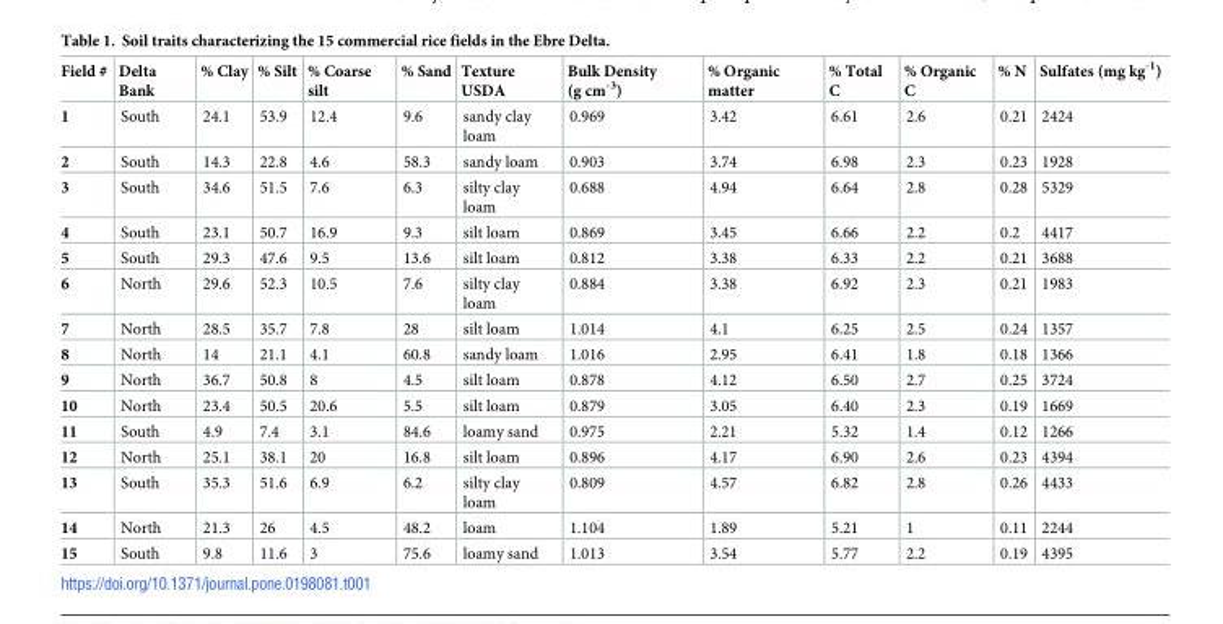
<table><thead><tr><td>Field #</td><td>Delta Bank</td><td>% Clay</td><td>% Silt</td><td>% Coarse silt</td><td>% Sand</td><td>Texture USDA</td><td>Bulk Density (g cm<sup>-3</sup>)</td><td>% Organic matter</td><td>% Total C</td><td>% Organic C</td><td>% N</td><td>Sulfates (mg kg<sup>-1</sup>)</td></tr></thead><tbody><tr><td>1</td><td>South</td><td>24.1</td><td>53.9</td><td>12.4</td><td>9.6</td><td>sandy clay loam</td><td>0.969</td><td>3.42</td><td>6.61</td><td>2.6</td><td>0.21</td><td>2424</td></tr><tr><td>2</td><td>South</td><td>14.3</td><td>22.8</td><td>4.6</td><td>58.3</td><td>sandy loam</td><td>0.903</td><td>3.74</td><td>6.98</td><td>2.3</td><td>0.23</td><td>1928</td></tr><tr><td>3</td><td>South</td><td>34.6</td><td>51.5</td><td>7.6</td><td>6.3</td><td>silty clay loam</td><td>0.688</td><td>4.94</td><td>6.64</td><td>2.8</td><td>0.28</td><td>5329</td></tr><tr><td>4</td><td>South</td><td>23.1</td><td>50.7</td><td>16.9</td><td>9.3</td><td>silt loam</td><td>0.869</td><td>3.45</td><td>6.66</td><td>2.2</td><td>0.2</td><td>4417</td></tr><tr><td>5</td><td>South</td><td>29.3</td><td>47.6</td><td>9.5</td><td>13.6</td><td>silt loam</td><td>0.812</td><td>3.38</td><td>6.33</td><td>2.2</td><td>0.21</td><td>3688</td></tr><tr><td>6</td><td>North</td><td>29.6</td><td>52.3</td><td>10.5</td><td>7.6</td><td>silty clay loam</td><td>0.884</td><td>3.38</td><td>6.92</td><td>2.3</td><td>0.21</td><td>1983</td></tr><tr><td>7</td><td>North</td><td>28.5</td><td>35.7</td><td>7.8</td><td>28</td><td>silt loam</td><td>1.014</td><td>4.1</td><td>6.25</td><td>2.5</td><td>0.24</td><td>1357</td></tr><tr><td>8</td><td>North</td><td>14</td><td>21.1</td><td>4.1</td><td>60.8</td><td>sandy loam</td><td>1.016</td><td>2.95</td><td>6.41</td><td>1.8</td><td>0.18</td><td>1366</td></tr><tr><td>9</td><td>North</td><td>36.7</td><td>50.8</td><td>8</td><td>4.5</td><td>silt loam</td><td>0.878</td><td>4.12</td><td>6.50</td><td>2.7</td><td>0.25</td><td>3724</td></tr><tr><td>10</td><td>North</td><td>23.4</td><td>50.5</td><td>20.6</td><td>5.5</td><td>silt loam</td><td>0.879</td><td>3.05</td><td>6.40</td><td>2.3</td><td>0.19</td><td>1669</td></tr><tr><td>11</td><td>South</td><td>4.9</td><td>7.4</td><td>3.1</td><td>84.6</td><td>loamy sand</td><td>0.975</td><td>2.21</td><td>5.32</td><td>1.4</td><td>0.12</td><td>1266</td></tr><tr><td>12</td><td>North</td><td>25.1</td><td>38.1</td><td>20</td><td>16.8</td><td>silt loam</td><td>0.896</td><td>4.17</td><td>6.90</td><td>2.6</td><td>0.23</td><td>4394</td></tr><tr><td>13</td><td>South</td><td>35.3</td><td>51.6</td><td>6.9</td><td>6.2</td><td>silty clay loam</td><td>0.809</td><td>4.57</td><td>6.82</td><td>2.8</td><td>0.26</td><td>4433</td></tr><tr><td>14</td><td>North</td><td>21.3</td><td>26</td><td>4.5</td><td>48.2</td><td>loam</td><td>1.104</td><td>1.89</td><td>5.21</td><td>1</td><td>0.11</td><td>2244</td></tr><tr><td>15</td><td>South</td><td>9.8</td><td>11.6</td><td>3</td><td>75.6</td><td>loamy sand</td><td>1.013</td><td>3.54</td><td>5.77</td><td>2.2</td><td>0.19</td><td>4395</td></tr></tbody></table>